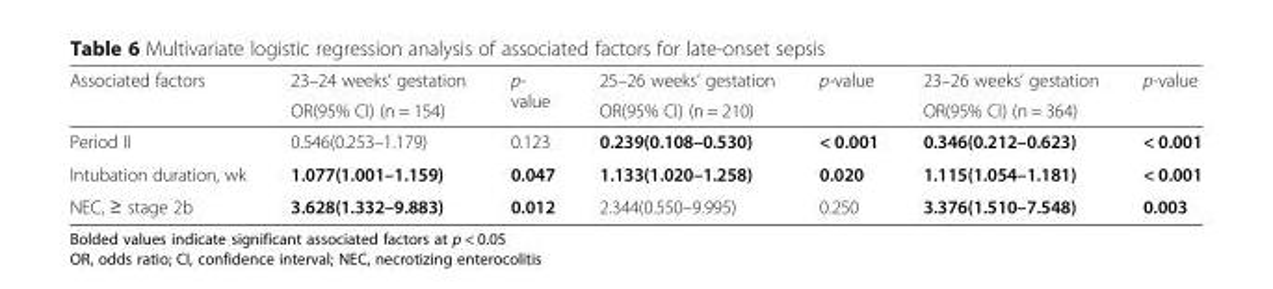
<table><thead><tr><td rowspan="2">Associated factors</td><td rowspan="2">23–24 weeks’ gestation OR(95% CI) (n = 154)</td><td rowspan="2">p- value</td><td rowspan="2">25–26 weeks’ gestation OR(95% CI) (n = 210)</td><td rowspan="2">p-value</td><td rowspan="2">23–26 weeks’ gestation OR(95% CI) (n = 364)</td><td rowspan="2">p-value</td></tr><tr></tr></thead><tbody><tr><td>Period II</td><td>0.546(0.253–1.179)</td><td>0.123</td><td>0.239(0.108–0.530)</td><td>&lt; 0.001</td><td>0.346(0.212–0.623)</td><td>&lt; 0.001</td></tr><tr><td>Intubation duration, wk</td><td>1.077(1.001–1.159)</td><td>0.047</td><td>1.133(1.020–1.258)</td><td>0.020</td><td>1.115(1.054–1.181)</td><td>&lt; 0.001</td></tr><tr><td>NEC, ≥ stage 2b</td><td>3.628(1.332–9.883)</td><td>0.012</td><td>2.344(0.550–9.995)</td><td>0.250</td><td>3.376(1.510–7.548)</td><td>0.003</td></tr></tbody></table>